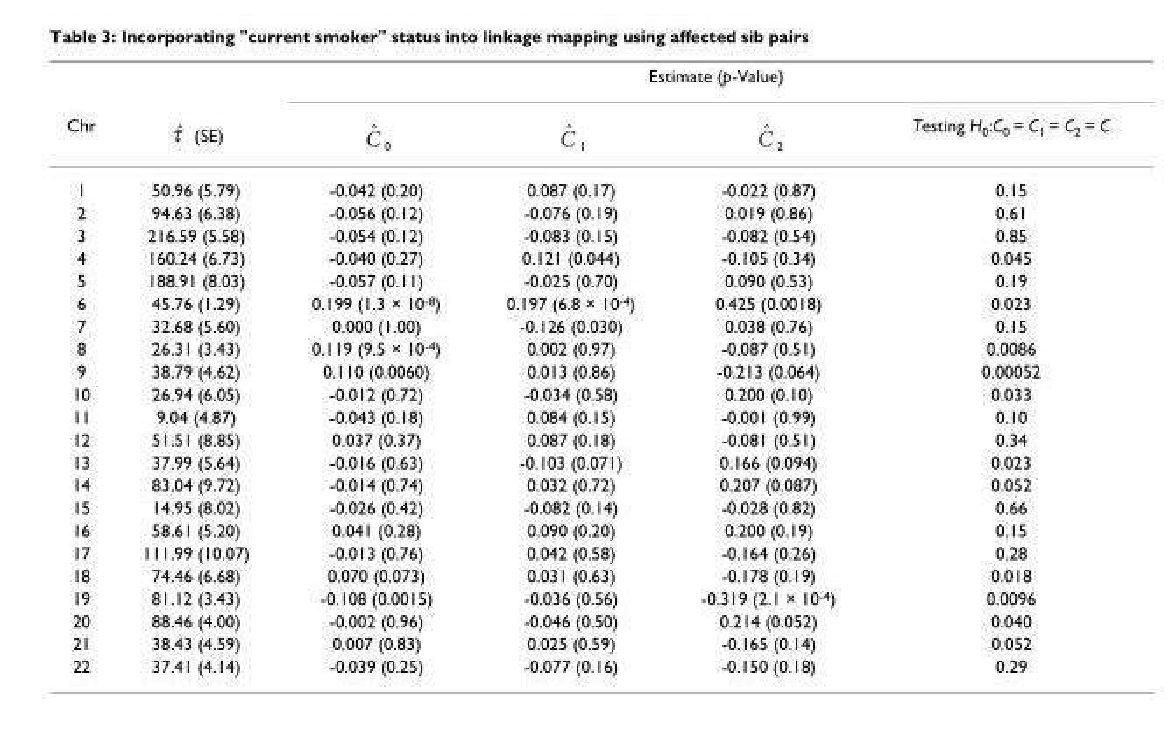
<table><thead><tr><td rowspan="2">Chr</td><td rowspan="2">(SE) ˆτ</td><td colspan="4">Estimate (p-Value)</td></tr><tr><td>0 ˆC</td><td>1 ˆC</td><td>2 ˆC</td><td>Testing H<sub>0</sub>:C<sub>0</sub> = C<sub>1</sub> = C<sub>2</sub> = C</td></tr></thead><tbody><tr><td>1</td><td>50.96 (5.79)</td><td>-0.042 (0.20)</td><td>0.087 (0.17)</td><td>-0.022 (0.87)</td><td>0.15</td></tr><tr><td>2</td><td>94.63 (6.38)</td><td>-0.056 (0.12)</td><td>-0.076 (0.19)</td><td>0.019 (0.86)</td><td>0.61</td></tr><tr><td>3</td><td>216.59 (5.58)</td><td>-0.054 (0.12)</td><td>-0.083 (0.15)</td><td>-0.082 (0.54)</td><td>0.85</td></tr><tr><td>4</td><td>160.24 (6.73)</td><td>-0.040 (0.27)</td><td>0.121 (0.044)</td><td>-0.105 (0.34)</td><td>0.045</td></tr><tr><td>5</td><td>188.91 (8.03)</td><td>-0.057 (0.11)</td><td>-0.025 (0.70)</td><td>0.090 (0.53)</td><td>0.19</td></tr><tr><td>6</td><td>45.76 (1.29)</td><td>0.199 (1.3 × 10<sup>-8</sup>)</td><td>0.197 (6.8 × 10<sup>-4</sup>)</td><td>0.425 (0.0018)</td><td>0.023</td></tr><tr><td>7</td><td>32.68 (5.60)</td><td>0.000 (1.00)</td><td>-0.126 (0.030)</td><td>0.038 (0.76)</td><td>0.15</td></tr><tr><td>8</td><td>26.31 (3.43)</td><td>0.119 (9.5 × 10<sup>-4</sup>)</td><td>0.002 (0.97)</td><td>-0.087 (0.51)</td><td>0.0086</td></tr><tr><td>9</td><td>38.79 (4.62)</td><td>0.110 (0.0060)</td><td>0.013 (0.86)</td><td>-0.213 (0.064)</td><td>0.00052</td></tr><tr><td>10</td><td>26.94 (6.05)</td><td>-0.012 (0.72)</td><td>-0.034 (0.58)</td><td>0.200 (0.10)</td><td>0.033</td></tr><tr><td>11</td><td>9.04 (4.87)</td><td>-0.043 (0.18)</td><td>0.084 (0.15)</td><td>-0.001 (0.99)</td><td>0.10</td></tr><tr><td>12</td><td>51.51 (8.85)</td><td>0.037 (0.37)</td><td>0.087 (0.18)</td><td>-0.081 (0.51)</td><td>0.34</td></tr><tr><td>13</td><td>37.99 (5.64)</td><td>-0.016 (0.63)</td><td>-0.103 (0.071)</td><td>0.166 (0.094)</td><td>0.023</td></tr><tr><td>14</td><td>83.04 (9.72)</td><td>-0.014 (0.74)</td><td>0.032 (0.72)</td><td>0.207 (0.087)</td><td>0.052</td></tr><tr><td>15</td><td>14.95 (8.02)</td><td>-0.026 (0.42)</td><td>-0.082 (0.14)</td><td>-0.028 (0.82)</td><td>0.66</td></tr><tr><td>16</td><td>58.61 (5.20)</td><td>0.041 (0.28)</td><td>0.090 (0.20)</td><td>0.200 (0.19)</td><td>0.15</td></tr><tr><td>17</td><td>111.99 (10.07)</td><td>-0.013 (0.76)</td><td>0.042 (0.58)</td><td>-0.164 (0.26)</td><td>0.28</td></tr><tr><td>18</td><td>74.46 (6.68)</td><td>0.070 (0.073)</td><td>0.031 (0.63)</td><td>-0.178 (0.19)</td><td>0.018</td></tr><tr><td>19</td><td>81.12 (3.43)</td><td>-0.108 (0.0015)</td><td>-0.036 (0.56)</td><td>-0.319 (2.1 × 10<sup>-4</sup>)</td><td>0.0096</td></tr><tr><td>20</td><td>88.46 (4.00)</td><td>-0.002 (0.96)</td><td>-0.046 (0.50)</td><td>0.214 (0.052)</td><td>0.040</td></tr><tr><td>21</td><td>38.43 (4.59)</td><td>0.007 (0.83)</td><td>0.025 (0.59)</td><td>-0.165 (0.14)</td><td>0.052</td></tr><tr><td>22</td><td>37.41 (4.14)</td><td>-0.039 (0.25)</td><td>-0.077 (0.16)</td><td>-0.150 (0.18)</td><td>0.29</td></tr></tbody></table>